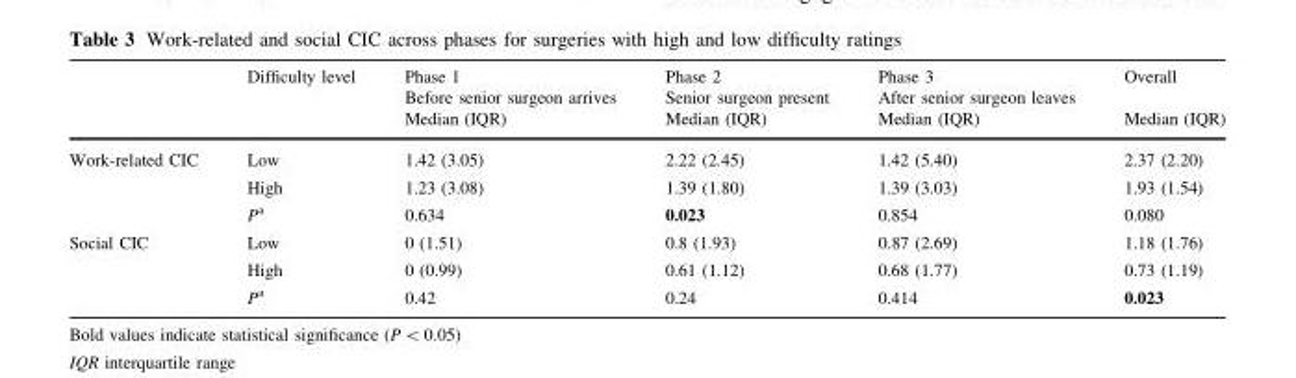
<table><thead><tr><td rowspan="3"></td><td rowspan="3">Difficulty level</td><td rowspan="3">Phase 1 Before senior surgeon arrives Median (IQR)</td><td rowspan="3">Phase 2 Senior surgeon present Median (IQR)</td><td rowspan="3">Phase 3 After senior surgeon leaves Median (IQR)</td><td rowspan="3">Overall Median (IQR)</td></tr><tr></tr><tr></tr></thead><tbody><tr><td rowspan="3">Work-related CIC</td><td>Low</td><td>1.42 (3.05)</td><td>2.22 (2.45)</td><td>1.42 (5.40)</td><td>2.37 (2.20)</td></tr><tr><td>High</td><td>1.23 (3.08)</td><td>1.39 (1.80)</td><td>1.39 (3.03)</td><td>1.93 (1.54)</td></tr><tr><td>P<sup>a</sup></td><td>0.634</td><td>0.023</td><td>0.854</td><td>0.080</td></tr><tr><td rowspan="3">Social CIC</td><td>Low</td><td>0 (1.51)</td><td>0.8 (1.93)</td><td>0.87 (2.69)</td><td>1.18 (1.76)</td></tr><tr><td>High</td><td>0 (0.99)</td><td>0.61 (1.12)</td><td>0.68 (1.77)</td><td>0.73 (1.19)</td></tr><tr><td>P<sup>a</sup></td><td>0.42</td><td>0.24</td><td>0.414</td><td>0.023</td></tr></tbody></table>